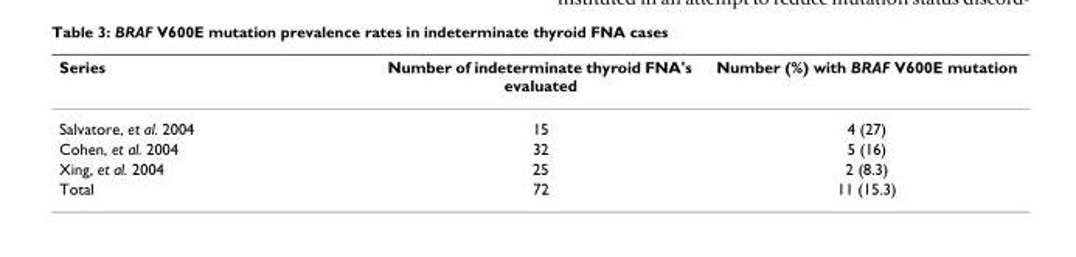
<table><thead><tr><td>Series</td><td>Number of indeterminate thyroid FNA&#x27;s evaluated</td><td>Number (%) with BRAF V600E mutation</td></tr></thead><tbody><tr><td>Salvatore, et al. 2004</td><td>15</td><td>4 (27)</td></tr><tr><td>Cohen, et al. 2004</td><td>32</td><td>5 (16)</td></tr><tr><td>Xing, et al. 2004</td><td>25</td><td>2 (8.3)</td></tr><tr><td>Total</td><td>72</td><td>11 (15.3)</td></tr></tbody></table>